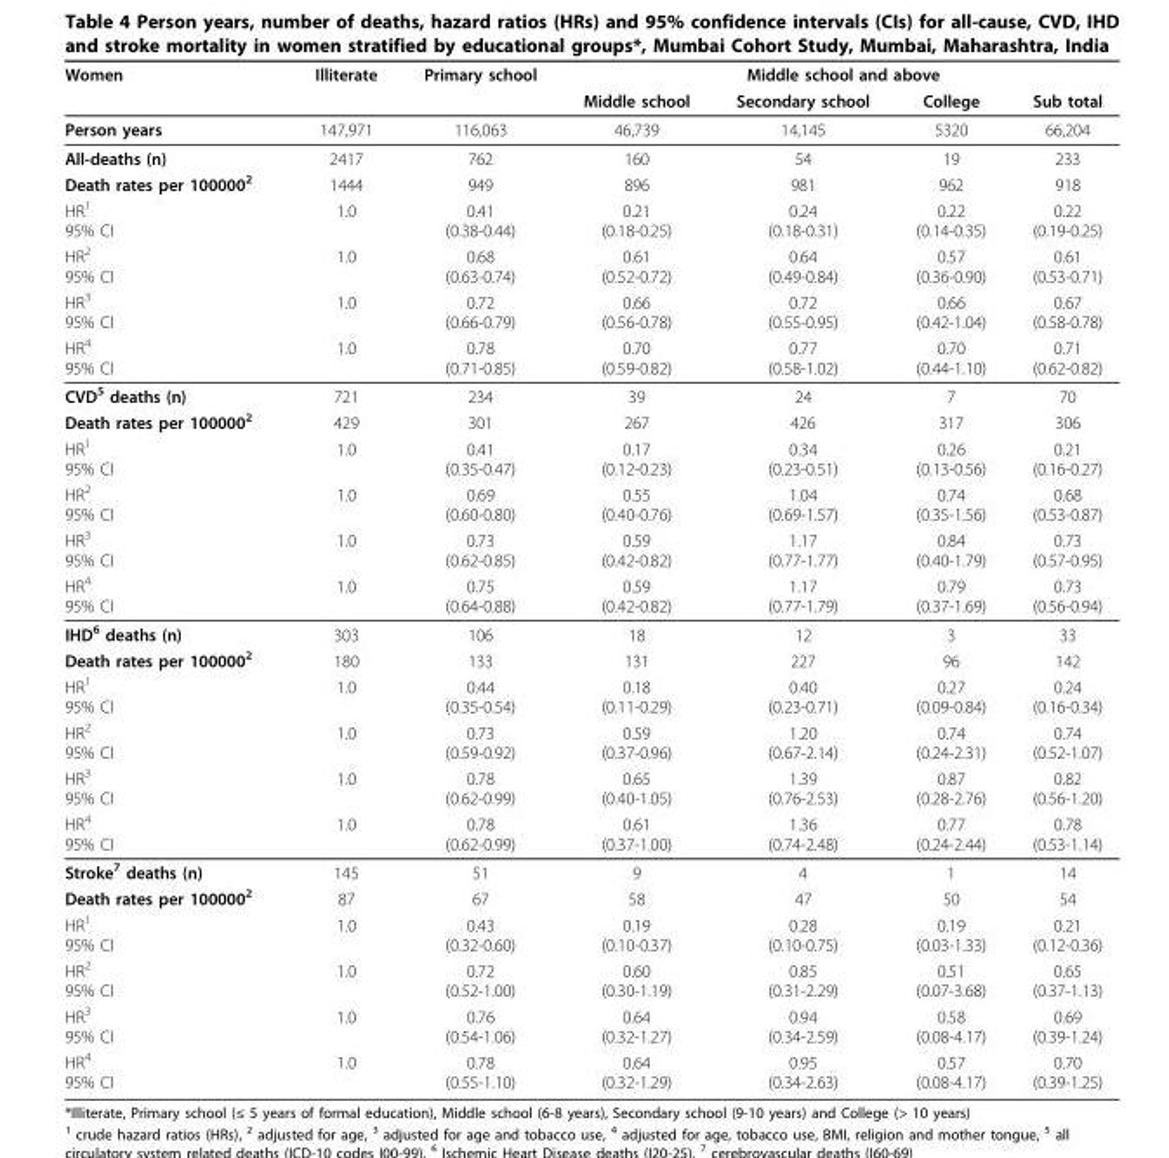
<table><thead><tr><td rowspan="2">Women</td><td rowspan="2">Illiterate</td><td rowspan="2">Primary school</td><td colspan="4">Middle school and above</td></tr><tr><td>Middle school</td><td>Secondary school</td><td>College</td><td>Sub total</td></tr></thead><tbody><tr><td>Person years</td><td>147,971</td><td>116,063</td><td>46,739</td><td>14,145</td><td>5320</td><td>66,204</td></tr><tr><td>All-deaths (n)</td><td>2417</td><td>762</td><td>160</td><td>54</td><td>19</td><td>233</td></tr><tr><td>Death rates per 100000<sup>2</sup></td><td>1444</td><td>949</td><td>896</td><td>981</td><td>962</td><td>918</td></tr><tr><td>HR<sup>1</sup> 95% CI</td><td>1.0</td><td>0.41 (0.38-0.44)</td><td>0.21 (0.18-0.25)</td><td>0.24 (0.18-0.31)</td><td>0.22 (0.14-0.35)</td><td>0.22 (0.19-0.25)</td></tr><tr><td>HR<sup>2</sup> 95% CI</td><td>1.0</td><td>0.68 (0.63-0.74)</td><td>0.61 (0.52-0.72)</td><td>0.64 (0.49-0.84)</td><td>0.57 (0.36-0.90)</td><td>0.61 (0.53-0.71)</td></tr><tr><td>HR<sup>3</sup> 95% CI</td><td>1.0</td><td>0.72 (0.66-0.79)</td><td>0.66 (0.56-0.78)</td><td>0.72 (0.55-0.95)</td><td>0.66 (0.42-1.04)</td><td>0.67 (0.58-0.78)</td></tr><tr><td>HR<sup>4</sup> 95% CI</td><td>1.0</td><td>0.78 (0.71-0.85)</td><td>0.70 (0.59-0.82)</td><td>0.77 (0.58-1.02)</td><td>0.70 (0.44-1.10)</td><td>0.71 (0.62-0.82)</td></tr><tr><td>CVD<sup>5</sup> deaths (n)</td><td>721</td><td>234</td><td>39</td><td>24</td><td>7</td><td>70</td></tr><tr><td>Death rates per 100000<sup>2</sup></td><td>429</td><td>301</td><td>267</td><td>426</td><td>317</td><td>306</td></tr><tr><td>HR<sup>1</sup> 95% CI</td><td>1.0</td><td>0.41 (0.35-0.47)</td><td>0.17 (0.12-0.23)</td><td>0.34 (0.23-0.51)</td><td>0.26 (0.13-0.56)</td><td>0.21 (0.16-0.27)</td></tr><tr><td>HR<sup>2</sup> 95% CI</td><td>1.0</td><td>0.69 (0.60-0.80)</td><td>0.55 (0.40-0.76)</td><td>1.04 (0.69-1.57)</td><td>0.74 (0.35-1.56)</td><td>0.68 (0.53-0.87)</td></tr><tr><td>HR<sup>3</sup> 95% CI</td><td>1.0</td><td>0.73 (0.62-0.85)</td><td>0.59 (0.42-0.82)</td><td>1.17 (0.77-1.77)</td><td>0.84 (0.40-1.79)</td><td>0.73 (0.57-0.95)</td></tr><tr><td>HR<sup>4</sup> 95% CI</td><td>1.0</td><td>0.75 (0.64-0.88)</td><td>0.59 (0.42-0.82)</td><td>1.17 (0.77-1.79)</td><td>0.79 (0.37-1.69)</td><td>0.73 (0.56-0.94)</td></tr><tr><td>IHD<sup>6</sup> deaths (n)</td><td>303</td><td>106</td><td>18</td><td>12</td><td>3</td><td>33</td></tr><tr><td>Death rates per 100000<sup>2</sup></td><td>180</td><td>133</td><td>131</td><td>227</td><td>96</td><td>142</td></tr><tr><td>HR<sup>1</sup> 95% CI</td><td>1.0</td><td>0.44 (0.35-0.54)</td><td>0.18 (0.11-0.29)</td><td>0.40 (0.23-0.71)</td><td>0.27 (0.09-0.84)</td><td>0.24 (0.16-0.34)</td></tr><tr><td>HR<sup>2</sup> 95% CI</td><td>1.0</td><td>0.73 (0.59-0.92)</td><td>0.59 (0.37-0.96)</td><td>1.20 (0.67-2.14)</td><td>0.74 (0.24-2.31)</td><td>0.74 (0.52-1.07)</td></tr><tr><td>HR<sup>3</sup> 95% CI</td><td>1.0</td><td>0.78 (0.62-0.99)</td><td>0.65 (0.40-1.05)</td><td>1.39 (0.76-2.53)</td><td>0.87 (0.28-2.76)</td><td>0.82 (0.56-1.20)</td></tr><tr><td>HR<sup>4</sup> 95% CI</td><td>1.0</td><td>0.78 (0.62-0.99)</td><td>0.61 (0.37-1.00)</td><td>1.36 (0.74-2.48)</td><td>0.77 (0.24-2.44)</td><td>0.78 (0.53-1.14)</td></tr><tr><td>Stroke<sup>7</sup> deaths (n)</td><td>145</td><td>51</td><td>9</td><td>4</td><td>1</td><td>14</td></tr><tr><td>Death rates per 100000<sup>2</sup></td><td>87</td><td>67</td><td>58</td><td>47</td><td>50</td><td>54</td></tr><tr><td>HR<sup>1</sup> 95% CI</td><td>1.0</td><td>0.43 (0.32-0.60)</td><td>0.19 (0.10-0.37)</td><td>0.28 (0.10-0.75)</td><td>0.19 (0.03-1.33)</td><td>0.21 (0.12-0.36)</td></tr><tr><td>HR<sup>2</sup> 95% CI</td><td>1.0</td><td>0.72 (0.52-1.00)</td><td>0.60 (0.30-1.19)</td><td>0.85 (0.31-2.29)</td><td>0.51 (0.07-3.68)</td><td>0.65 (0.37-1.13)</td></tr><tr><td>HR<sup>3</sup> 95% CI</td><td>1.0</td><td>0.76 (0.54-1.06)</td><td>0.64 (0.32-1.27)</td><td>0.94 (0.34-2.59)</td><td>0.58 (0.08-4.17)</td><td>0.69 (0.39-1.24)</td></tr><tr><td>HR<sup>4</sup> 95% CI</td><td>1.0</td><td>0.78 (0.55-1.10)</td><td>0.64 (0.32-1.29)</td><td>0.95 (0.34-2.63)</td><td>0.57 (0.08-4.17)</td><td>0.70 (0.39-1.25)</td></tr></tbody></table>